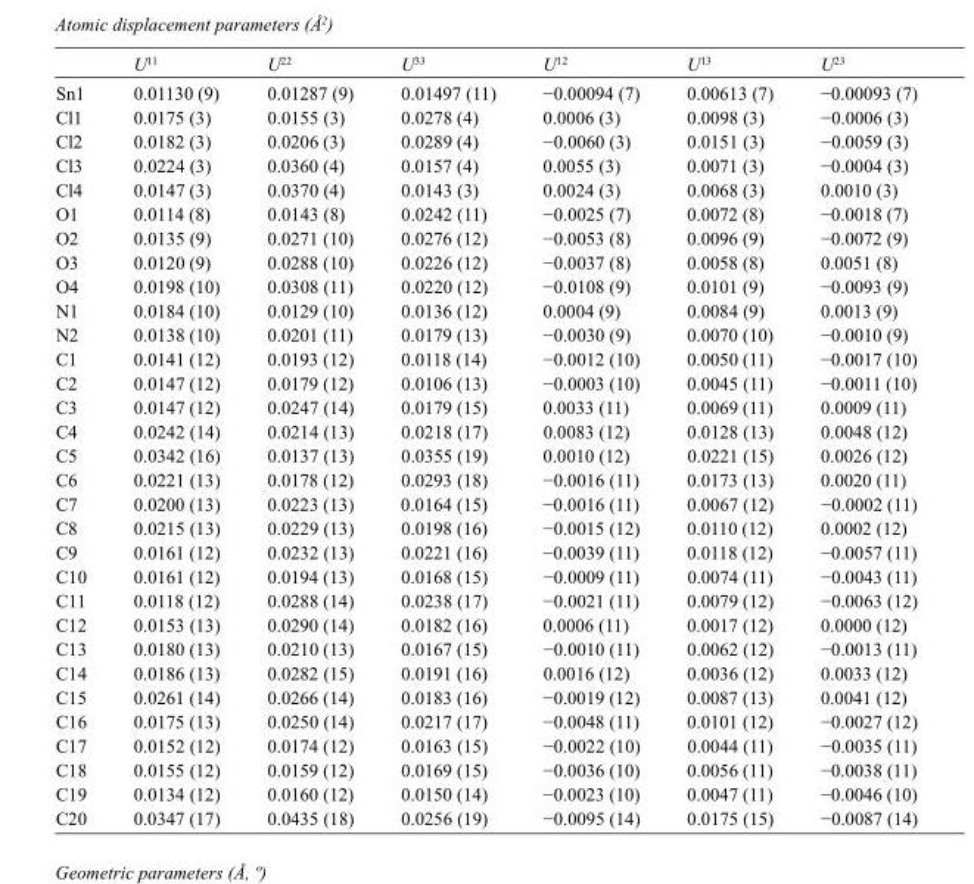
<table><thead><tr><td></td><td>U<sup>11</sup></td><td>U<sup>22</sup></td><td>U<sup>33</sup></td><td>U<sup>12</sup></td><td>U<sup>13</sup></td><td>U<sup>23</sup></td></tr></thead><tbody><tr><td>Sn1</td><td>0.01130 (9)</td><td>0.01287 (9)</td><td>0.01497 (11)</td><td>−0.00094 (7)</td><td>0.00613 (7)</td><td>−0.00093 (7)</td></tr><tr><td>Cl1</td><td>0.0175 (3)</td><td>0.0155 (3)</td><td>0.0278 (4)</td><td>0.0006 (3)</td><td>0.0098 (3)</td><td>−0.0006 (3)</td></tr><tr><td>Cl2</td><td>0.0182 (3)</td><td>0.0206 (3)</td><td>0.0289 (4)</td><td>−0.0060 (3)</td><td>0.0151 (3)</td><td>−0.0059 (3)</td></tr><tr><td>Cl3</td><td>0.0224 (3)</td><td>0.0360 (4)</td><td>0.0157 (4)</td><td>0.0055 (3)</td><td>0.0071 (3)</td><td>−0.0004 (3)</td></tr><tr><td>Cl4</td><td>0.0147 (3)</td><td>0.0370 (4)</td><td>0.0143 (3)</td><td>0.0024 (3)</td><td>0.0068 (3)</td><td>0.0010 (3)</td></tr><tr><td>O1</td><td>0.0114 (8)</td><td>0.0143 (8)</td><td>0.0242 (11)</td><td>−0.0025 (7)</td><td>0.0072 (8)</td><td>−0.0018 (7)</td></tr><tr><td>O2</td><td>0.0135 (9)</td><td>0.0271 (10)</td><td>0.0276 (12)</td><td>−0.0053 (8)</td><td>0.0096 (9)</td><td>−0.0072 (9)</td></tr><tr><td>O3</td><td>0.0120 (9)</td><td>0.0288 (10)</td><td>0.0226 (12)</td><td>−0.0037 (8)</td><td>0.0058 (8)</td><td>0.0051 (8)</td></tr><tr><td>O4</td><td>0.0198 (10)</td><td>0.0308 (11)</td><td>0.0220 (12)</td><td>−0.0108 (9)</td><td>0.0101 (9)</td><td>−0.0093 (9)</td></tr><tr><td>N1</td><td>0.0184 (10)</td><td>0.0129 (10)</td><td>0.0136 (12)</td><td>0.0004 (9)</td><td>0.0084 (9)</td><td>0.0013 (9)</td></tr><tr><td>N2</td><td>0.0138 (10)</td><td>0.0201 (11)</td><td>0.0179 (13)</td><td>−0.0030 (9)</td><td>0.0070 (10)</td><td>−0.0010 (9)</td></tr><tr><td>C1</td><td>0.0141 (12)</td><td>0.0193 (12)</td><td>0.0118 (14)</td><td>−0.0012 (10)</td><td>0.0050 (11)</td><td>−0.0017 (10)</td></tr><tr><td>C2</td><td>0.0147 (12)</td><td>0.0179 (12)</td><td>0.0106 (13)</td><td>−0.0003 (10)</td><td>0.0045 (11)</td><td>−0.0011 (10)</td></tr><tr><td>C3</td><td>0.0147 (12)</td><td>0.0247 (14)</td><td>0.0179 (15)</td><td>0.0033 (11)</td><td>0.0069 (11)</td><td>0.0009 (11)</td></tr><tr><td>C4</td><td>0.0242 (14)</td><td>0.0214 (13)</td><td>0.0218 (17)</td><td>0.0083 (12)</td><td>0.0128 (13)</td><td>0.0048 (12)</td></tr><tr><td>C5</td><td>0.0342 (16)</td><td>0.0137 (13)</td><td>0.0355 (19)</td><td>0.0010 (12)</td><td>0.0221 (15)</td><td>0.0026 (12)</td></tr><tr><td>C6</td><td>0.0221 (13)</td><td>0.0178 (12)</td><td>0.0293 (18)</td><td>−0.0016 (11)</td><td>0.0173 (13)</td><td>0.0020 (11)</td></tr><tr><td>C7</td><td>0.0200 (13)</td><td>0.0223 (13)</td><td>0.0164 (15)</td><td>−0.0016 (11)</td><td>0.0067 (12)</td><td>−0.0002 (11)</td></tr><tr><td>C8</td><td>0.0215 (13)</td><td>0.0229 (13)</td><td>0.0198 (16)</td><td>−0.0015 (12)</td><td>0.0110 (12)</td><td>0.0002 (12)</td></tr><tr><td>C9</td><td>0.0161 (12)</td><td>0.0232 (13)</td><td>0.0221 (16)</td><td>−0.0039 (11)</td><td>0.0118 (12)</td><td>−0.0057 (11)</td></tr><tr><td>C10</td><td>0.0161 (12)</td><td>0.0194 (13)</td><td>0.0168 (15)</td><td>−0.0009 (11)</td><td>0.0074 (11)</td><td>−0.0043 (11)</td></tr><tr><td>C11</td><td>0.0118 (12)</td><td>0.0288 (14)</td><td>0.0238 (17)</td><td>−0.0021 (11)</td><td>0.0079 (12)</td><td>−0.0063 (12)</td></tr><tr><td>C12</td><td>0.0153 (13)</td><td>0.0290 (14)</td><td>0.0182 (16)</td><td>0.0006 (11)</td><td>0.0017 (12)</td><td>0.0000 (12)</td></tr><tr><td>C13</td><td>0.0180 (13)</td><td>0.0210 (13)</td><td>0.0167 (15)</td><td>−0.0010 (11)</td><td>0.0062 (12)</td><td>−0.0013 (11)</td></tr><tr><td>C14</td><td>0.0186 (13)</td><td>0.0282 (15)</td><td>0.0191 (16)</td><td>0.0016 (12)</td><td>0.0036 (12)</td><td>0.0033 (12)</td></tr><tr><td>C15</td><td>0.0261 (14)</td><td>0.0266 (14)</td><td>0.0183 (16)</td><td>−0.0019 (12)</td><td>0.0087 (13)</td><td>0.0041 (12)</td></tr><tr><td>C16</td><td>0.0175 (13)</td><td>0.0250 (14)</td><td>0.0217 (17)</td><td>−0.0048 (11)</td><td>0.0101 (12)</td><td>−0.0027 (12)</td></tr><tr><td>C17</td><td>0.0152 (12)</td><td>0.0174 (12)</td><td>0.0163 (15)</td><td>−0.0022 (10)</td><td>0.0044 (11)</td><td>−0.0035 (11)</td></tr><tr><td>C18</td><td>0.0155 (12)</td><td>0.0159 (12)</td><td>0.0169 (15)</td><td>−0.0036 (10)</td><td>0.0056 (11)</td><td>−0.0038 (11)</td></tr><tr><td>C19</td><td>0.0134 (12)</td><td>0.0160 (12)</td><td>0.0150 (14)</td><td>−0.0023 (10)</td><td>0.0047 (11)</td><td>−0.0046 (10)</td></tr><tr><td>C20</td><td>0.0347 (17)</td><td>0.0435 (18)</td><td>0.0256 (19)</td><td>−0.0095 (14)</td><td>0.0175 (15)</td><td>−0.0087 (14)</td></tr></tbody></table>